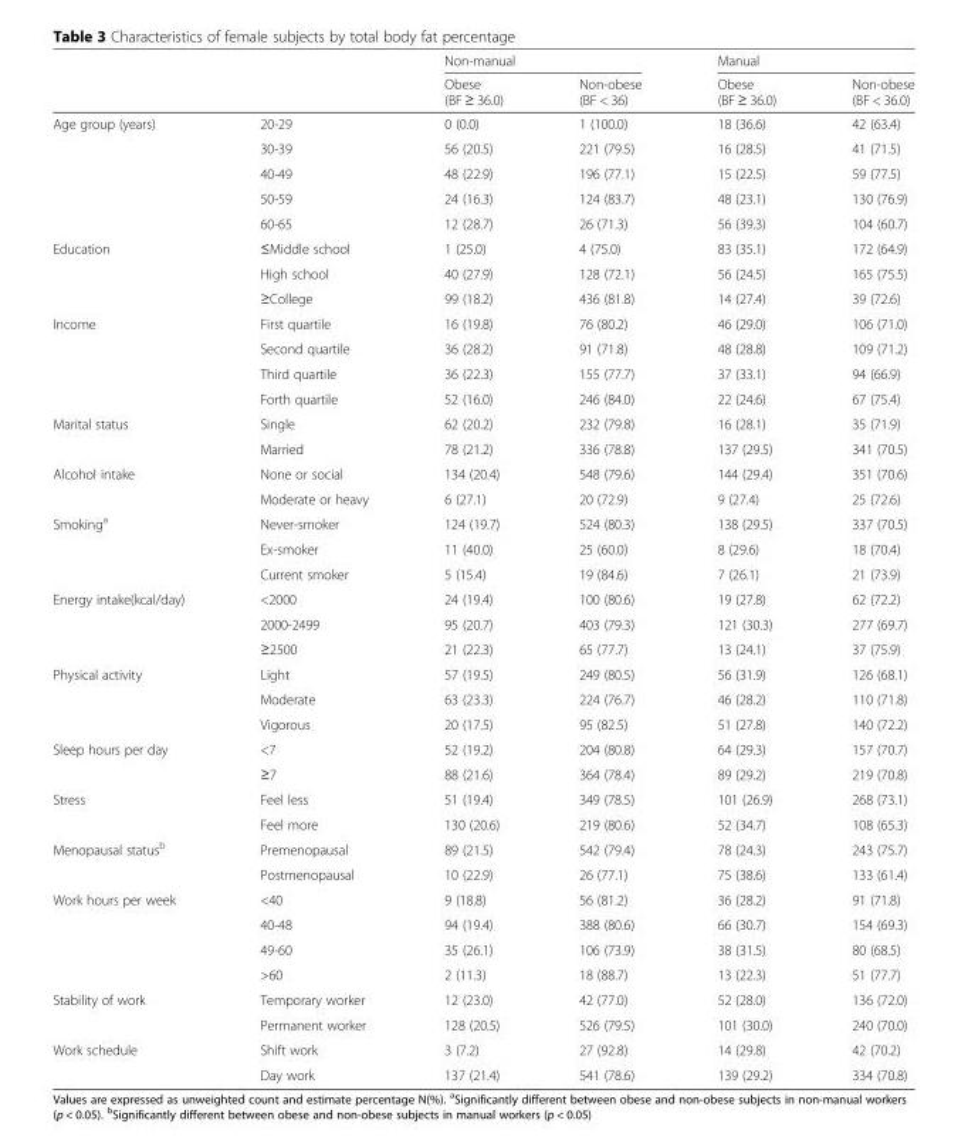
<table><thead><tr><td rowspan="2"></td><td rowspan="2"></td><td colspan="2">Non-manual</td><td colspan="2">Manual</td></tr><tr><td>Obese (BF ≥ 36.0)</td><td>Non-obese (BF &lt; 36)</td><td>Obese (BF ≥ 36.0)</td><td>Non-obese (BF &lt; 36.0)</td></tr></thead><tbody><tr><td rowspan="5">Age group (years)</td><td>20-29</td><td>0 (0.0)</td><td>1 (100.0)</td><td>18 (36.6)</td><td>42 (63.4)</td></tr><tr><td>30-39</td><td>56 (20.5)</td><td>221 (79.5)</td><td>16 (28.5)</td><td>41 (71.5)</td></tr><tr><td>40-49</td><td>48 (22.9)</td><td>196 (77.1)</td><td>15 (22.5)</td><td>59 (77.5)</td></tr><tr><td>50-59</td><td>24 (16.3)</td><td>124 (83.7)</td><td>48 (23.1)</td><td>130 (76.9)</td></tr><tr><td>60-65</td><td>12 (28.7)</td><td>26 (71.3)</td><td>56 (39.3)</td><td>104 (60.7)</td></tr><tr><td rowspan="3">Education</td><td>≤Middle school</td><td>1 (25.0)</td><td>4 (75.0)</td><td>83 (35.1)</td><td>172 (64.9)</td></tr><tr><td>High school</td><td>40 (27.9)</td><td>128 (72.1)</td><td>56 (24.5)</td><td>165 (75.5)</td></tr><tr><td>≥College</td><td>99 (18.2)</td><td>436 (81.8)</td><td>14 (27.4)</td><td>39 (72.6)</td></tr><tr><td rowspan="4">Income</td><td>First quartile</td><td>16 (19.8)</td><td>76 (80.2)</td><td>46 (29.0)</td><td>106 (71.0)</td></tr><tr><td>Second quartile</td><td>36 (28.2)</td><td>91 (71.8)</td><td>48 (28.8)</td><td>109 (71.2)</td></tr><tr><td>Third quartile</td><td>36 (22.3)</td><td>155 (77.7)</td><td>37 (33.1)</td><td>94 (66.9)</td></tr><tr><td>Forth quartile</td><td>52 (16.0)</td><td>246 (84.0)</td><td>22 (24.6)</td><td>67 (75.4)</td></tr><tr><td rowspan="2">Marital status</td><td>Single</td><td>62 (20.2)</td><td>232 (79.8)</td><td>16 (28.1)</td><td>35 (71.9)</td></tr><tr><td>Married</td><td>78 (21.2)</td><td>336 (78.8)</td><td>137 (29.5)</td><td>341 (70.5)</td></tr><tr><td rowspan="2">Alcohol intake</td><td>None or social</td><td>134 (20.4)</td><td>548 (79.6)</td><td>144 (29.4)</td><td>351 (70.6)</td></tr><tr><td>Moderate or heavy</td><td>6 (27.1)</td><td>20 (72.9)</td><td>9 (27.4)</td><td>25 (72.6)</td></tr><tr><td rowspan="3">Smoking<sup>a</sup></td><td>Never-smoker</td><td>124 (19.7)</td><td>524 (80.3)</td><td>138 (29.5)</td><td>337 (70.5)</td></tr><tr><td>Ex-smoker</td><td>11 (40.0)</td><td>25 (60.0)</td><td>8 (29.6)</td><td>18 (70.4)</td></tr><tr><td>Current smoker</td><td>5 (15.4)</td><td>19 (84.6)</td><td>7 (26.1)</td><td>21 (73.9)</td></tr><tr><td rowspan="3">Energy intake(kcal/day)</td><td>&lt;2000</td><td>24 (19.4)</td><td>100 (80.6)</td><td>19 (27.8)</td><td>62 (72.2)</td></tr><tr><td>2000-2499</td><td>95 (20.7)</td><td>403 (79.3)</td><td>121 (30.3)</td><td>277 (69.7)</td></tr><tr><td>≥2500</td><td>21 (22.3)</td><td>65 (77.7)</td><td>13 (24.1)</td><td>37 (75.9)</td></tr><tr><td rowspan="3">Physical activity</td><td>Light</td><td>57 (19.5)</td><td>249 (80.5)</td><td>56 (31.9)</td><td>126 (68.1)</td></tr><tr><td>Moderate</td><td>63 (23.3)</td><td>224 (76.7)</td><td>46 (28.2)</td><td>110 (71.8)</td></tr><tr><td>Vigorous</td><td>20 (17.5)</td><td>95 (82.5)</td><td>51 (27.8)</td><td>140 (72.2)</td></tr><tr><td rowspan="2">Sleep hours per day</td><td>&lt;7</td><td>52 (19.2)</td><td>204 (80.8)</td><td>64 (29.3)</td><td>157 (70.7)</td></tr><tr><td>≥7</td><td>88 (21.6)</td><td>364 (78.4)</td><td>89 (29.2)</td><td>219 (70.8)</td></tr><tr><td rowspan="2">Stress</td><td>Feel less</td><td>51 (19.4)</td><td>349 (78.5)</td><td>101 (26.9)</td><td>268 (73.1)</td></tr><tr><td>Feel more</td><td>130 (20.6)</td><td>219 (80.6)</td><td>52 (34.7)</td><td>108 (65.3)</td></tr><tr><td rowspan="2">Menopausal status<sup>b</sup></td><td>Premenopausal</td><td>89 (21.5)</td><td>542 (79.4)</td><td>78 (24.3)</td><td>243 (75.7)</td></tr><tr><td>Postmenopausal</td><td>10 (22.9)</td><td>26 (77.1)</td><td>75 (38.6)</td><td>133 (61.4)</td></tr><tr><td rowspan="4">Work hours per week</td><td>&lt;40</td><td>9 (18.8)</td><td>56 (81.2)</td><td>36 (28.2)</td><td>91 (71.8)</td></tr><tr><td>40-48</td><td>94 (19.4)</td><td>388 (80.6)</td><td>66 (30.7)</td><td>154 (69.3)</td></tr><tr><td>49-60</td><td>35 (26.1)</td><td>106 (73.9)</td><td>38 (31.5)</td><td>80 (68.5)</td></tr><tr><td>&gt;60</td><td>2 (11.3)</td><td>18 (88.7)</td><td>13 (22.3)</td><td>51 (77.7)</td></tr><tr><td rowspan="2">Stability of work</td><td>Temporary worker</td><td>12 (23.0)</td><td>42 (77.0)</td><td>52 (28.0)</td><td>136 (72.0)</td></tr><tr><td>Permanent worker</td><td>128 (20.5)</td><td>526 (79.5)</td><td>101 (30.0)</td><td>240 (70.0)</td></tr><tr><td rowspan="2">Work schedule</td><td>Shift work</td><td>3 (7.2)</td><td>27 (92.8)</td><td>14 (29.8)</td><td>42 (70.2)</td></tr><tr><td>Day work</td><td>137 (21.4)</td><td>541 (78.6)</td><td>139 (29.2)</td><td>334 (70.8)</td></tr></tbody></table>